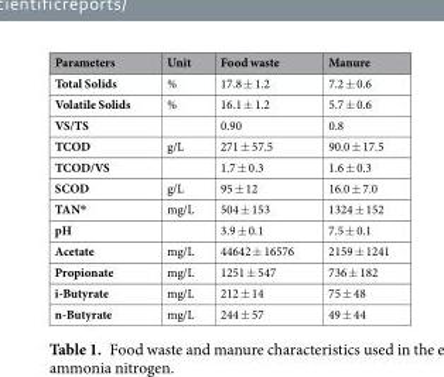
<table><thead><tr><td>Parameters</td><td>Unit</td><td>Food waste</td><td>Manure</td></tr></thead><tbody><tr><td>Total Solids</td><td>%</td><td>17.8 ± 1.2</td><td>7.2 ± 0.6</td></tr><tr><td>Volatile Solids</td><td>%</td><td>16.1 ± 1.2</td><td>5.7 ± 0.6</td></tr><tr><td>VS/TS</td><td></td><td>0.90</td><td>0.8</td></tr><tr><td>TCOD</td><td>g/L</td><td>271 ± 57.5</td><td>90.0 ± 17.5</td></tr><tr><td>TCOD/VS</td><td></td><td>1.7 ± 0.3</td><td>1.6 ± 0.3</td></tr><tr><td>SCOD</td><td>g/L</td><td>95 ± 12</td><td>16.0 ± 7.0</td></tr><tr><td>TAN*</td><td>mg/L</td><td>504 ± 153</td><td>1324 ± 152</td></tr><tr><td>pH</td><td></td><td>3.9 ± 0.1</td><td>7.5 ± 0.1</td></tr><tr><td>Acetate</td><td>mg/L</td><td>44642 ± 16576</td><td>2159 ± 1241</td></tr><tr><td>Propionate</td><td>mg/L</td><td>1251 ± 547</td><td>736 ± 182</td></tr><tr><td>i-Butyrate</td><td>mg/L</td><td>212 ± 14</td><td>75 ± 48</td></tr><tr><td>n-Butyrate</td><td>mg/L</td><td>244 ± 57</td><td>49 ± 44</td></tr></tbody></table>